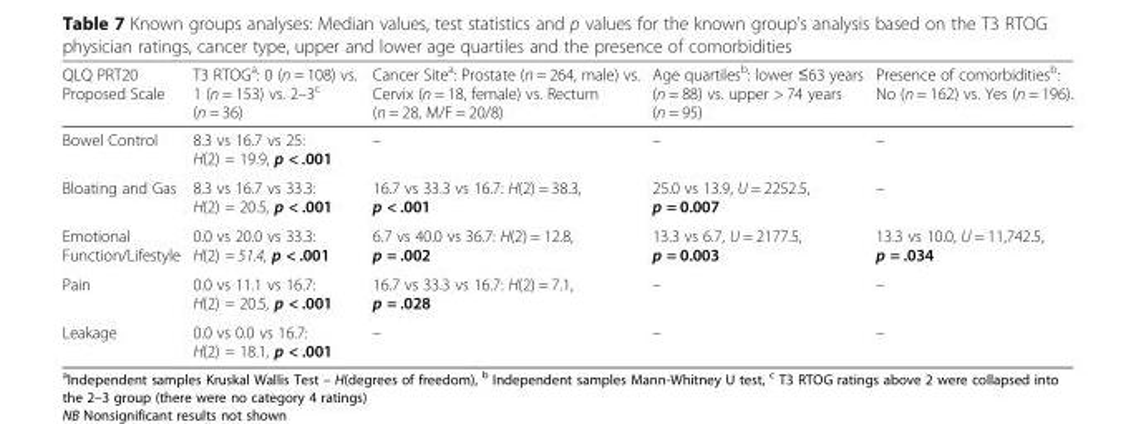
<table><thead><tr><td>QLQ PRT20 Proposed Scale</td><td>T3 RTOG<sup>a</sup>: 0 (n = 108) vs. 1 (n = 153) vs. 2–3<sup>c</sup> (n = 36)</td><td>Cancer Site<sup>a</sup>: Prostate (n = 264, male) vs. Cervix (n = 18, female) vs. Rectum (n = 28, M/F = 20/8)</td><td>Age quartiles<sup>b</sup>: lower ≤63 years (n = 88) vs. upper &gt; 74 years (n = 95)</td><td>Presence of comorbidities<sup>b</sup>: No (n = 162) vs. Yes (n = 196).</td></tr></thead><tbody><tr><td>Bowel Control</td><td>8.3 vs 16.7 vs 25: H(2) = 19.9, p &lt; .001</td><td>–</td><td>–</td><td>–</td></tr><tr><td>Bloating and Gas</td><td>8.3 vs 16.7 vs 33.3: H(2) = 20.5, p &lt; .001</td><td>16.7 vs 33.3 vs 16.7: H(2) = 38.3, p &lt; .001</td><td>25.0 vs 13.9, U = 2252.5, p = 0.007</td><td>–</td></tr><tr><td>Emotional Function/Lifestyle</td><td>0.0 vs 20.0 vs 33.3: H(2) = 51.4, p &lt; .001</td><td>6.7 vs 40.0 vs 36.7: H(2) = 12.8, p = .002</td><td>13.3 vs 6.7, U = 2177.5, p = 0.003</td><td>13.3 vs 10.0, U = 11,742.5, p = .034</td></tr><tr><td>Pain</td><td>0.0 vs 11.1 vs 16.7: H(2) = 20.5, p &lt; .001</td><td>16.7 vs 33.3 vs 16.7: H(2) = 7.1, p = .028</td><td>–</td><td>–</td></tr><tr><td>Leakage</td><td>0.0 vs 0.0 vs 16.7: H(2) = 18.1, p &lt; .001</td><td>–</td><td>–</td><td>–</td></tr></tbody></table>